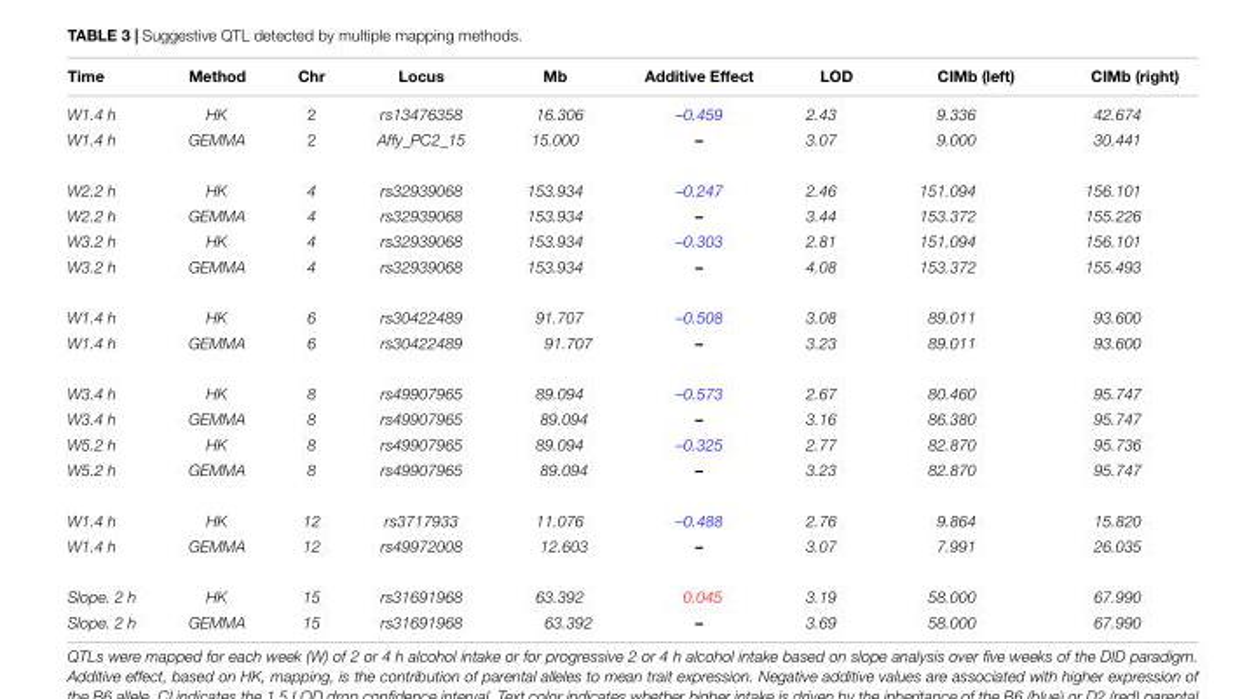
<table><thead><tr><td>Time</td><td>Method</td><td>Chr</td><td>Locus</td><td>Mb</td><td>Additive Effect</td><td>LOD</td><td>CIMb (left)</td><td>CIMb (right)</td></tr></thead><tbody><tr><td>W1.4 h</td><td>HK</td><td>2</td><td>rs13476358</td><td>16.306</td><td>–0.459</td><td>2.43</td><td>9.336</td><td>42.674</td></tr><tr><td>W1.4 h</td><td>GEMMA</td><td>2</td><td>Affy_PC2_15</td><td>15.000</td><td>–</td><td>3.07</td><td>9.000</td><td>30.441</td></tr><tr><td>W2.2 h</td><td>HK</td><td>4</td><td>rs32939068</td><td>153.934</td><td>–0.247</td><td>2.46</td><td>151.094</td><td>156.101</td></tr><tr><td>W2.2 h</td><td>GEMMA</td><td>4</td><td>rs32939068</td><td>153.934</td><td>–</td><td>3.44</td><td>153.372</td><td>155.226</td></tr><tr><td>W3.2 h</td><td>HK</td><td>4</td><td>rs32939068</td><td>153.934</td><td>–0.303</td><td>2.81</td><td>151.094</td><td>156.101</td></tr><tr><td>W3.2 h</td><td>GEMMA</td><td>4</td><td>rs32939068</td><td>153.934</td><td>–</td><td>4.08</td><td>153.372</td><td>155.493</td></tr><tr><td>W1.4 h</td><td>HK</td><td>6</td><td>rs30422489</td><td>91.707</td><td>–0.508</td><td>3.08</td><td>89.011</td><td>93.600</td></tr><tr><td>W1.4 h</td><td>GEMMA</td><td>6</td><td>rs30422489</td><td>91.707</td><td>–</td><td>3.23</td><td>89.011</td><td>93.600</td></tr><tr><td>W3.4 h</td><td>HK</td><td>8</td><td>rs49907965</td><td>89.094</td><td>–0.573</td><td>2.67</td><td>80.460</td><td>95.747</td></tr><tr><td>W3.4 h</td><td>GEMMA</td><td>8</td><td>rs49907965</td><td>89.094</td><td>–</td><td>3.16</td><td>86.380</td><td>95.747</td></tr><tr><td>W5.2 h</td><td>HK</td><td>8</td><td>rs49907965</td><td>89.094</td><td>–0.325</td><td>2.77</td><td>82.870</td><td>95.736</td></tr><tr><td>W5.2 h</td><td>GEMMA</td><td>8</td><td>rs49907965</td><td>89.094</td><td>–</td><td>3.23</td><td>82.870</td><td>95.747</td></tr><tr><td>W1.4 h</td><td>HK</td><td>12</td><td>rs3717933</td><td>11.076</td><td>–0.488</td><td>2.76</td><td>9.864</td><td>15.820</td></tr><tr><td>W1.4 h</td><td>GEMMA</td><td>12</td><td>rs49972008</td><td>12.603</td><td>–</td><td>3.07</td><td>7.991</td><td>26.035</td></tr><tr><td>Slope. 2 h</td><td>HK</td><td>15</td><td>rs31691968</td><td>63.392</td><td>0.045</td><td>3.19</td><td>58.000</td><td>67.990</td></tr><tr><td>Slope. 2 h</td><td>GEMMA</td><td>15</td><td>rs31691968</td><td>63.392</td><td>–</td><td>3.69</td><td>58.000</td><td>67.990</td></tr></tbody></table>